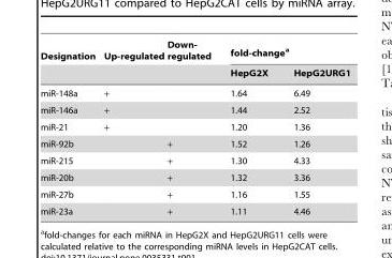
<table><thead><tr><td rowspan="2">Designation</td><td rowspan="2">Up-regulated</td><td rowspan="2">Down- regulated</td><td colspan="2">fold-change<sup>a</sup></td></tr><tr><td>HepG2X</td><td>HepG2URG1</td></tr></thead><tbody><tr><td>miR-148a</td><td>+</td><td></td><td>1.64</td><td>6.49</td></tr><tr><td>miR-146a</td><td>+</td><td></td><td>1.44</td><td>2.52</td></tr><tr><td>miR-21</td><td>+</td><td></td><td>1.20</td><td>1.36</td></tr><tr><td>miR-92b</td><td></td><td>+</td><td>1.52</td><td>1.26</td></tr><tr><td>miR-215</td><td></td><td>+</td><td>1.30</td><td>4.33</td></tr><tr><td>miR-20b</td><td></td><td>+</td><td>1.32</td><td>3.36</td></tr><tr><td>miR-27b</td><td></td><td>+</td><td>1.16</td><td>1.55</td></tr><tr><td>miR-23a</td><td></td><td>+</td><td>1.11</td><td>4.46</td></tr></tbody></table>